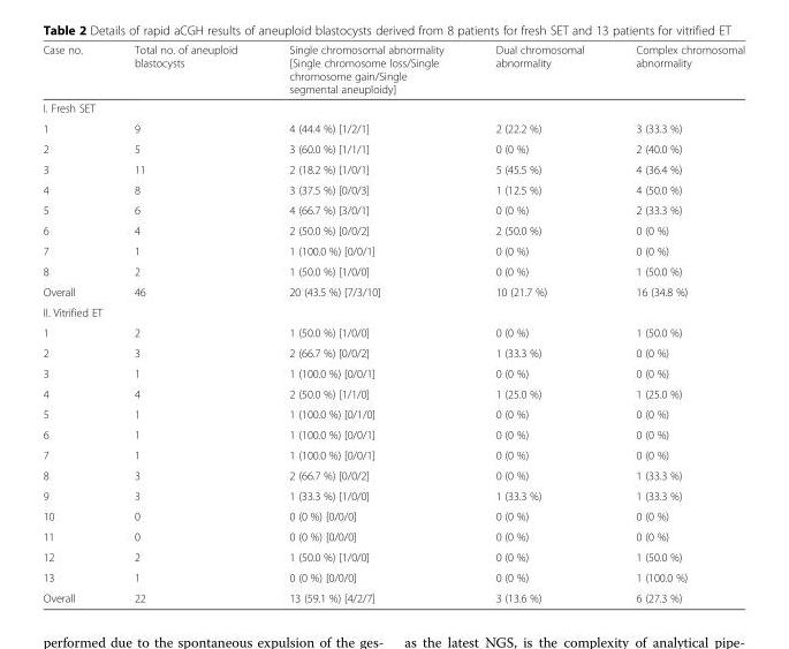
<table><thead><tr><td>Case no.</td><td>Total no. of aneuploid blastocysts</td><td>Single chromosomal abnormality [Single chromosome loss/Single chromosome gain/Single segmental aneuploidy]</td><td>Dual chromosomal abnormality</td><td>Complex chromosomal abnormality</td></tr></thead><tbody><tr><td colspan="5">I. Fresh SET</td></tr><tr><td>1</td><td>9</td><td>4 (44.4 %) [1/2/1]</td><td>2 (22.2 %)</td><td>3 (33.3 %)</td></tr><tr><td>2</td><td>5</td><td>3 (60.0 %) [1/1/1]</td><td>0 (0 %)</td><td>2 (40.0 %)</td></tr><tr><td>3</td><td>11</td><td>2 (18.2 %) [1/0/1]</td><td>5 (45.5 %)</td><td>4 (36.4 %)</td></tr><tr><td>4</td><td>8</td><td>3 (37.5 %) [0/0/3]</td><td>1 (12.5 %)</td><td>4 (50.0 %)</td></tr><tr><td>5</td><td>6</td><td>4 (66.7 %) [3/0/1]</td><td>0 (0 %)</td><td>2 (33.3 %)</td></tr><tr><td>6</td><td>4</td><td>2 (50.0 %) [0/0/2]</td><td>2 (50.0 %)</td><td>0 (0 %)</td></tr><tr><td>7</td><td>1</td><td>1 (100.0 %) [0/0/1]</td><td>0 (0 %)</td><td>0 (0 %)</td></tr><tr><td>8</td><td>2</td><td>1 (50.0 %) [1/0/0]</td><td>0 (0 %)</td><td>1 (50.0 %)</td></tr><tr><td>Overall</td><td>46</td><td>20 (43.5 %) [7/3/10]</td><td>10 (21.7 %)</td><td>16 (34.8 %)</td></tr><tr><td colspan="5">II. Vitrified ET</td></tr><tr><td>1</td><td>2</td><td>1 (50.0 %) [1/0/0]</td><td>0 (0 %)</td><td>1 (50.0 %)</td></tr><tr><td>2</td><td>3</td><td>2 (66.7 %) [0/0/2]</td><td>1 (33.3 %)</td><td>0 (0 %)</td></tr><tr><td>3</td><td>1</td><td>1 (100.0 %) [0/0/1]</td><td>0 (0 %)</td><td>0 (0 %)</td></tr><tr><td>4</td><td>4</td><td>2 (50.0 %) [1/1/0]</td><td>1 (25.0 %)</td><td>1 (25.0 %)</td></tr><tr><td>5</td><td>1</td><td>1 (100.0 %) [0/1/0]</td><td>0 (0 %)</td><td>0 (0 %)</td></tr><tr><td>6</td><td>1</td><td>1 (100.0 %) [0/0/1]</td><td>0 (0 %)</td><td>0 (0 %)</td></tr><tr><td>7</td><td>1</td><td>1 (100.0 %) [0/0/1]</td><td>0 (0 %)</td><td>0 (0 %)</td></tr><tr><td>8</td><td>3</td><td>2 (66.7 %) [0/0/2]</td><td>0 (0 %)</td><td>1 (33.3 %)</td></tr><tr><td>9</td><td>3</td><td>1 (33.3 %) [1/0/0]</td><td>1 (33.3 %)</td><td>1 (33.3 %)</td></tr><tr><td>10</td><td>0</td><td>0 (0 %) [0/0/0]</td><td>0 (0 %)</td><td>0 (0 %)</td></tr><tr><td>11</td><td>0</td><td>0 (0 %) [0/0/0]</td><td>0 (0 %)</td><td>0 (0 %)</td></tr><tr><td>12</td><td>2</td><td>1 (50.0 %) [1/0/0]</td><td>0 (0 %)</td><td>1 (50.0 %)</td></tr><tr><td>13</td><td>1</td><td>0 (0 %) [0/0/0]</td><td>0 (0 %)</td><td>1 (100.0 %)</td></tr><tr><td>Overall</td><td>22</td><td>13 (59.1 %) [4/2/7]</td><td>3 (13.6 %)</td><td>6 (27.3 %)</td></tr></tbody></table>